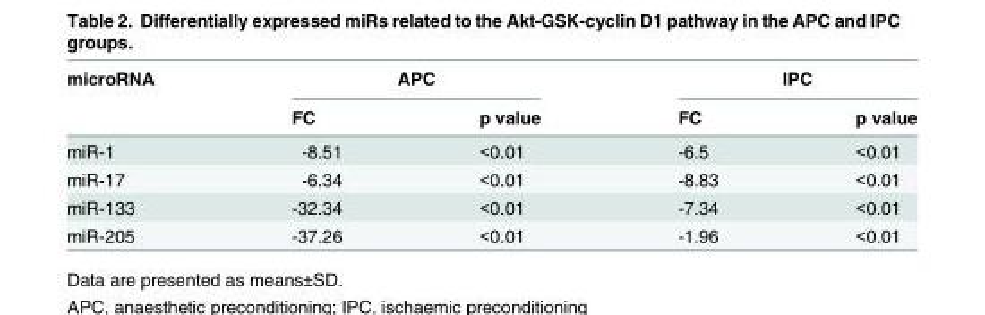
<table><thead><tr><td rowspan="2">microRNA</td><td colspan="2">APC</td><td colspan="2">IPC</td></tr><tr><td>FC</td><td>p value</td><td>FC</td><td>p value</td></tr></thead><tbody><tr><td>miR-1</td><td>-8.51</td><td>&lt;0.01</td><td>-6.5</td><td>&lt;0.01</td></tr><tr><td>miR-17</td><td>-6.34</td><td>&lt;0.01</td><td>-8.83</td><td>&lt;0.01</td></tr><tr><td>miR-133</td><td>-32.34</td><td>&lt;0.01</td><td>-7.34</td><td>&lt;0.01</td></tr><tr><td>miR-205</td><td>-37.26</td><td>&lt;0.01</td><td>-1.96</td><td>&lt;0.01</td></tr></tbody></table>